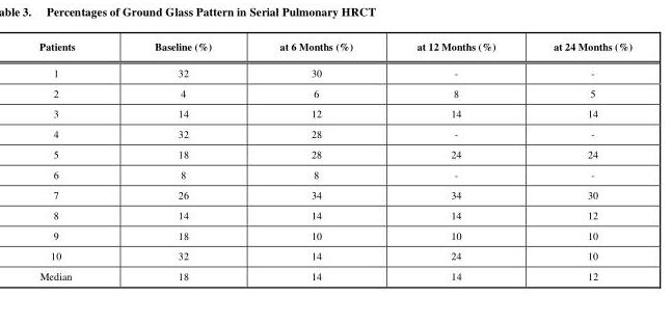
<table><thead><tr><td>Patients</td><td>Baseline (%)</td><td>at 6 Months (%)</td><td>at 12 Months (%)</td><td>at 24 Months (%)</td></tr></thead><tbody><tr><td>1</td><td>32</td><td>30</td><td>-</td><td>-</td></tr><tr><td>2</td><td>4</td><td>6</td><td>8</td><td>5</td></tr><tr><td>3</td><td>14</td><td>12</td><td>14</td><td>14</td></tr><tr><td>4</td><td>32</td><td>28</td><td>-</td><td>-</td></tr><tr><td>5</td><td>18</td><td>28</td><td>24</td><td>24</td></tr><tr><td>6</td><td>8</td><td>8</td><td>-</td><td>-</td></tr><tr><td>7</td><td>26</td><td>34</td><td>34</td><td>30</td></tr><tr><td>8</td><td>14</td><td>14</td><td>14</td><td>12</td></tr><tr><td>9</td><td>18</td><td>10</td><td>10</td><td>10</td></tr><tr><td>10</td><td>32</td><td>14</td><td>24</td><td>10</td></tr><tr><td>Median</td><td>18</td><td>14</td><td>14</td><td>12</td></tr></tbody></table>